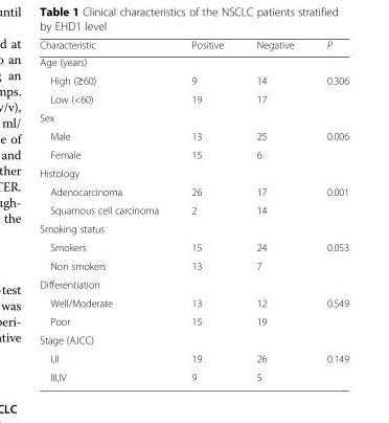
<table><thead><tr><td>Characteristic</td><td>Positive</td><td>Negative</td><td>P</td></tr></thead><tbody><tr><td colspan="4">Age (years)</td></tr><tr><td>High (≥60)</td><td>9</td><td>14</td><td>0.306</td></tr><tr><td>Low (&lt;60)</td><td>19</td><td>17</td><td></td></tr><tr><td colspan="4">Sex</td></tr><tr><td>Male</td><td>13</td><td>25</td><td>0.006</td></tr><tr><td>Female</td><td>15</td><td>6</td><td></td></tr><tr><td colspan="4">Histology</td></tr><tr><td>Adenocarcinoma</td><td>26</td><td>17</td><td>0.001</td></tr><tr><td>Squamous cell carcinoma</td><td>2</td><td>14</td><td></td></tr><tr><td colspan="4">Smoking status</td></tr><tr><td>Smokers</td><td>15</td><td>24</td><td>0.053</td></tr><tr><td>Non smokers</td><td>13</td><td>7</td><td></td></tr><tr><td colspan="4">Differentiation</td></tr><tr><td>Well/Moderate</td><td>13</td><td>12</td><td>0.549</td></tr><tr><td>Poor</td><td>15</td><td>19</td><td></td></tr><tr><td colspan="4">Stage (AJCC)</td></tr><tr><td>I,II</td><td>19</td><td>26</td><td>0.149</td></tr><tr><td>III,IV</td><td>9</td><td>5</td><td></td></tr></tbody></table>